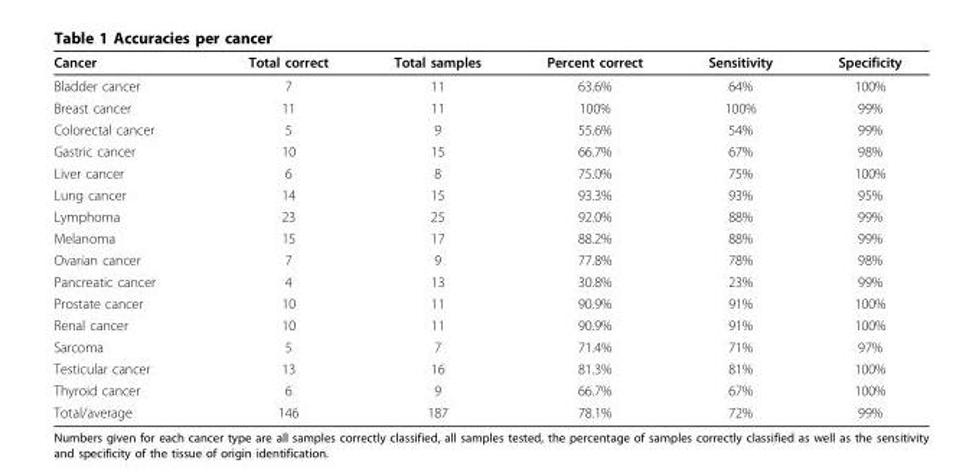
<table><thead><tr><td>Cancer</td><td>Total correct</td><td>Total samples</td><td>Percent correct</td><td>Sensitivity</td><td>Specificity</td></tr></thead><tbody><tr><td>Bladder cancer</td><td>7</td><td>11</td><td>63.6%</td><td>64%</td><td>100%</td></tr><tr><td>Breast cancer</td><td>11</td><td>11</td><td>100%</td><td>100%</td><td>99%</td></tr><tr><td>Colorectal cancer</td><td>5</td><td>9</td><td>55.6%</td><td>54%</td><td>99%</td></tr><tr><td>Gastric cancer</td><td>10</td><td>15</td><td>66.7%</td><td>67%</td><td>98%</td></tr><tr><td>Liver cancer</td><td>6</td><td>8</td><td>75.0%</td><td>75%</td><td>100%</td></tr><tr><td>Lung cancer</td><td>14</td><td>15</td><td>93.3%</td><td>93%</td><td>95%</td></tr><tr><td>Lymphoma</td><td>23</td><td>25</td><td>92.0%</td><td>88%</td><td>99%</td></tr><tr><td>Melanoma</td><td>15</td><td>17</td><td>88.2%</td><td>88%</td><td>99%</td></tr><tr><td>Ovarian cancer</td><td>7</td><td>9</td><td>77.8%</td><td>78%</td><td>98%</td></tr><tr><td>Pancreatic cancer</td><td>4</td><td>13</td><td>30.8%</td><td>23%</td><td>99%</td></tr><tr><td>Prostate cancer</td><td>10</td><td>11</td><td>90.9%</td><td>91%</td><td>100%</td></tr><tr><td>Renal cancer</td><td>10</td><td>11</td><td>90.9%</td><td>91%</td><td>100%</td></tr><tr><td>Sarcoma</td><td>5</td><td>7</td><td>71.4%</td><td>71%</td><td>97%</td></tr><tr><td>Testicular cancer</td><td>13</td><td>16</td><td>81.3%</td><td>81%</td><td>100%</td></tr><tr><td>Thyroid cancer</td><td>6</td><td>9</td><td>66.7%</td><td>67%</td><td>100%</td></tr><tr><td>Total/average</td><td>146</td><td>187</td><td>78.1%</td><td>72%</td><td>99%</td></tr></tbody></table>